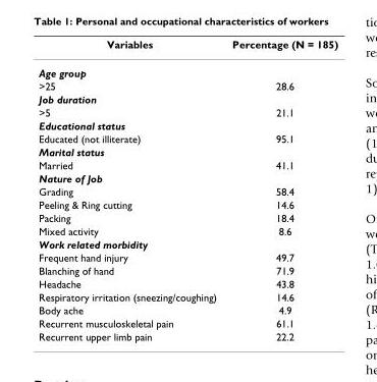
<table><thead><tr><td>Variables</td><td>Percentage (N = 185)</td></tr></thead><tbody><tr><td colspan="2">Age group</td></tr><tr><td>&gt;25</td><td>28.6</td></tr><tr><td colspan="2">Job duration</td></tr><tr><td>&gt;5</td><td>21.1</td></tr><tr><td colspan="2">Educational status</td></tr><tr><td>Educated (not illiterate)</td><td>95.1</td></tr><tr><td colspan="2">Marital status</td></tr><tr><td>Married</td><td>41.1</td></tr><tr><td colspan="2">Nature of Job</td></tr><tr><td>Grading</td><td>58.4</td></tr><tr><td>Peeling &amp; Ring cutting</td><td>14.6</td></tr><tr><td>Packing</td><td>18.4</td></tr><tr><td>Mixed activity</td><td>8.6</td></tr><tr><td colspan="2">Work related morbidity</td></tr><tr><td>Frequent hand injury</td><td>49.7</td></tr><tr><td>Blanching of hand</td><td>71.9</td></tr><tr><td>Headache</td><td>43.8</td></tr><tr><td>Respiratory irritation (sneezing/coughing)</td><td>14.6</td></tr><tr><td>Body ache</td><td>4.9</td></tr><tr><td>Recurrent musculoskeletal pain</td><td>61.1</td></tr><tr><td>Recurrent upper limb pain</td><td>22.2</td></tr></tbody></table>